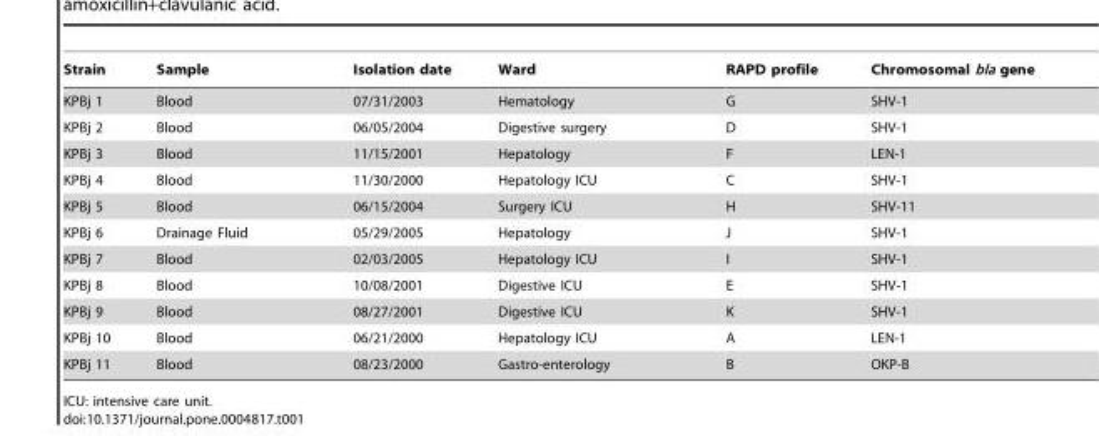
<table><thead><tr><td>Strain</td><td>Sample</td><td>Isolation date</td><td>Ward</td><td>RAPD profile</td><td>Chromosomal bla gene</td></tr></thead><tbody><tr><td>KPBj 1</td><td>Blood</td><td>07/31/2003</td><td>Hematology</td><td>G</td><td>SHV-1</td></tr><tr><td>KPBj 2</td><td>Blood</td><td>06/05/2004</td><td>Digestive surgery</td><td>D</td><td>SHV-1</td></tr><tr><td>KPBj 3</td><td>Blood</td><td>11/15/2001</td><td>Hepatology</td><td>F</td><td>LEN-1</td></tr><tr><td>KPBj 4</td><td>Blood</td><td>11/30/2000</td><td>Hepatology ICU</td><td>C</td><td>SHV-1</td></tr><tr><td>KPBj 5</td><td>Blood</td><td>06/15/2004</td><td>Surgery ICU</td><td>H</td><td>SHV-11</td></tr><tr><td>KPBj 6</td><td>Drainage Fluid</td><td>05/29/2005</td><td>Hepatology</td><td>J</td><td>SHV-1</td></tr><tr><td>KPBj 7</td><td>Blood</td><td>02/03/2005</td><td>Hepatology ICU</td><td>I</td><td>SHV-1</td></tr><tr><td>KPBj 8</td><td>Blood</td><td>10/08/2001</td><td>Digestive ICU</td><td>E</td><td>SHV-1</td></tr><tr><td>KPBj 9</td><td>Blood</td><td>08/27/2001</td><td>Digestive ICU</td><td>K</td><td>SHV-1</td></tr><tr><td>KPBj 10</td><td>Blood</td><td>06/21/2000</td><td>Hepatology ICU</td><td>A</td><td>LEN-1</td></tr><tr><td>KPBj 11</td><td>Blood</td><td>08/23/2000</td><td>Gastro-enterology</td><td>B</td><td>OKP-B</td></tr></tbody></table>